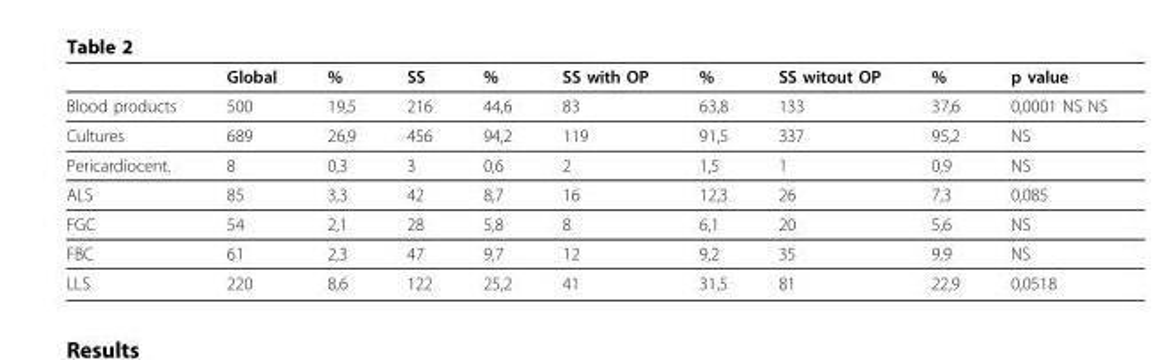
<table><thead><tr><td></td><td>Global</td><td>%</td><td>SS</td><td>%</td><td>SS with OP</td><td>%</td><td>SS witout OP</td><td>%</td><td>p value</td></tr></thead><tbody><tr><td>Blood products</td><td>500</td><td>19,5</td><td>216</td><td>44,6</td><td>83</td><td>63,8</td><td>133</td><td>37,6</td><td>0,0001 NS NS</td></tr><tr><td>Cultures</td><td>689</td><td>26,9</td><td>456</td><td>94,2</td><td>119</td><td>91,5</td><td>337</td><td>95,2</td><td>NS</td></tr><tr><td>Pericardiocent.</td><td>8</td><td>0,3</td><td>3</td><td>0,6</td><td>2</td><td>1,5</td><td>1</td><td>0,9</td><td>NS</td></tr><tr><td>ALS</td><td>85</td><td>3,3</td><td>42</td><td>8,7</td><td>16</td><td>12,3</td><td>26</td><td>7,3</td><td>0,085</td></tr><tr><td>FGC</td><td>54</td><td>2,1</td><td>28</td><td>5,8</td><td>8</td><td>6,1</td><td>20</td><td>5,6</td><td>NS</td></tr><tr><td>FBC</td><td>61</td><td>2,3</td><td>47</td><td>9,7</td><td>12</td><td>9,2</td><td>35</td><td>9,9</td><td>NS</td></tr><tr><td>LLS</td><td>220</td><td>8,6</td><td>122</td><td>25,2</td><td>41</td><td>31,5</td><td>81</td><td>22,9</td><td>0,0518</td></tr></tbody></table>